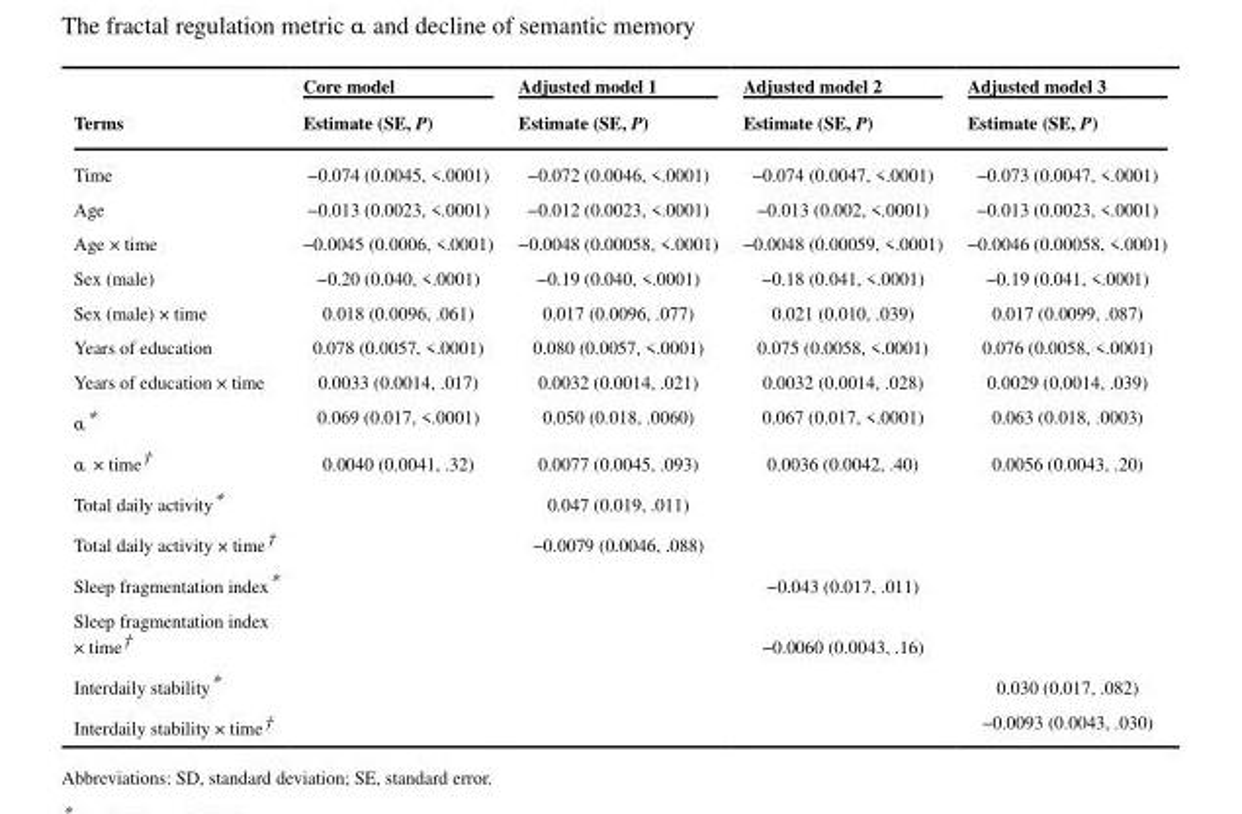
<table><thead><tr><td rowspan="2">Terms</td><td rowspan="2">Core model Estimate (SE, P)</td><td rowspan="2">Adjusted model 1 Estimate (SE, P)</td><td rowspan="2">Adjusted model 2 Estimate (SE, P)</td><td rowspan="2">Adjusted model 3 Estimate (SE, P)</td></tr><tr></tr></thead><tbody><tr><td>Time</td><td>−0.074 (0.0045, &lt;.0001)</td><td>−0.072 (0.0046, &lt;.0001)</td><td>−0.074 (0.0047, &lt;.0001)</td><td>−0.073 (0.0047, &lt;.0001)</td></tr><tr><td>Age</td><td>−0.013 (0.0023, &lt;.0001)</td><td>−0.012 (0.0023, &lt;.0001)</td><td>−0.013 (0.002, &lt;.0001)</td><td>−0.013 (0.0023, &lt;.0001)</td></tr><tr><td>Age × time</td><td>−0.0045 (0.0006, &lt;.0001)</td><td>−0.0048 (0.00058, &lt;.0001)</td><td>−0.0048 (0.00059, &lt;.0001)</td><td>−0.0046 (0.00058, &lt;.0001)</td></tr><tr><td>Sex (male)</td><td>−0.20 (0.040, &lt;.0001)</td><td>−0.19 (0.040, &lt;.0001)</td><td>−0.18 (0.041, &lt;.0001)</td><td>−0.19 (0.041, &lt;.0001)</td></tr><tr><td>Sex (male) × time</td><td>0.018 (0.0096, .061)</td><td>0.017 (0.0096, .077)</td><td>0.021 (0.010, .039)</td><td>0.017 (0.0099, .087)</td></tr><tr><td>Years of education</td><td>0.078 (0.0057, &lt;.0001)</td><td>0.080 (0.0057, &lt;.0001)</td><td>0.075 (0.0058, &lt;.0001)</td><td>0.076 (0.0058, &lt;.0001)</td></tr><tr><td>Years of education × time</td><td>0.0033 (0.0014, .017)</td><td>0.0032 (0.0014, .021)</td><td>0.0032 (0.0014, .028)</td><td>0.0029 (0.0014, .039)</td></tr><tr><td>α*</td><td>0.069 (0.017, &lt;.0001)</td><td>0.050 (0.018, .0060)</td><td>0.067 (0.017, &lt;.0001)</td><td>0.063 (0.018, .0003)</td></tr><tr><td>α × time†</td><td>0.0040 (0.0041, .32)</td><td>0.0077 (0.0045, .093)</td><td>0.0036 (0.0042, .40)</td><td>0.0056 (0.0043, .20)</td></tr><tr><td>Total daily activity*</td><td></td><td>0.047 (0.019, .011)</td><td></td><td></td></tr><tr><td>Total daily activity × time†</td><td></td><td>−0.0079 (0.0046, .088)</td><td></td><td></td></tr><tr><td>Sleep fragmentation index*</td><td></td><td></td><td>−0.043 (0.017, .011)</td><td></td></tr><tr><td>Sleep fragmentation index × time†</td><td></td><td></td><td>−0.0060 (0.0043, .16)</td><td></td></tr><tr><td>Interdaily stability*</td><td></td><td></td><td></td><td>0.030 (0.017, .082)</td></tr><tr><td>Interdaily stability × time†</td><td></td><td></td><td></td><td>−0.0093 (0.0043, .030)</td></tr></tbody></table>